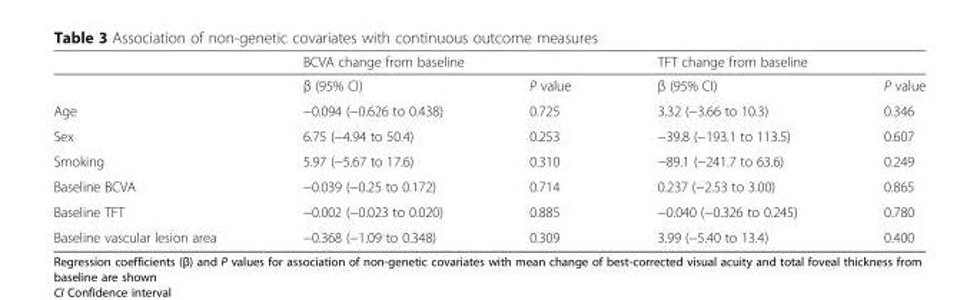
<table><thead><tr><td rowspan="2"></td><td colspan="2">BCVA change from baseline</td><td colspan="2">TFT change from baseline</td></tr><tr><td>β (95% CI)</td><td>P value</td><td>β (95% CI)</td><td>P value</td></tr></thead><tbody><tr><td>Age</td><td>−0.094 (−0.626 to 0.438)</td><td>0.725</td><td>3.32 (−3.66 to 10.3)</td><td>0.346</td></tr><tr><td>Sex</td><td>6.75 (−4.94 to 50.4)</td><td>0.253</td><td>−39.8 (−193.1 to 113.5)</td><td>0.607</td></tr><tr><td>Smoking</td><td>5.97 (−5.67 to 17.6)</td><td>0.310</td><td>−89.1 (−241.7 to 63.6)</td><td>0.249</td></tr><tr><td>Baseline BCVA</td><td>−0.039 (−0.25 to 0.172)</td><td>0.714</td><td>0.237 (−2.53 to 3.00)</td><td>0.865</td></tr><tr><td>Baseline TFT</td><td>−0.002 (−0.023 to 0.020)</td><td>0.885</td><td>−0.040 (−0.326 to 0.245)</td><td>0.780</td></tr><tr><td>Baseline vascular lesion area</td><td>−0.368 (−1.09 to 0.348)</td><td>0.309</td><td>3.99 (−5.40 to 13.4)</td><td>0.400</td></tr></tbody></table>